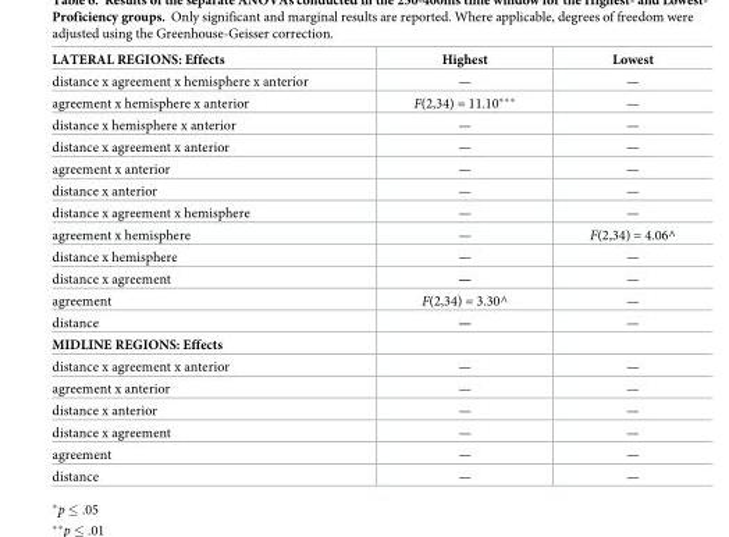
<table><thead><tr><td>LATERAL REGIONS: Effects</td><td>Highest</td><td>Lowest</td></tr></thead><tbody><tr><td>distance x agreement x hemisphere x anterior</td><td>—</td><td>—</td></tr><tr><td>agreement x hemisphere x anterior</td><td>F(2,34) = 11.10***</td><td>—</td></tr><tr><td>distance x hemisphere x anterior</td><td>—</td><td>—</td></tr><tr><td>distance x agreement x anterior</td><td>—</td><td>—</td></tr><tr><td>agreement x anterior</td><td>—</td><td>—</td></tr><tr><td>distance x anterior</td><td>—</td><td>—</td></tr><tr><td>distance x agreement x hemisphere</td><td>—</td><td>—</td></tr><tr><td>agreement x hemisphere</td><td>—</td><td>F(2,34) = 4.06^</td></tr><tr><td>distance x hemisphere</td><td>—</td><td>—</td></tr><tr><td>distance x agreement</td><td>—</td><td>—</td></tr><tr><td>agreement</td><td>F(2,34) = 3.30^</td><td>—</td></tr><tr><td>distance</td><td>—</td><td>—</td></tr><tr><td colspan="3">MIDLINE REGIONS: Effects</td></tr><tr><td>distance x agreement x anterior</td><td>—</td><td>—</td></tr><tr><td>agreement x anterior</td><td>—</td><td>—</td></tr><tr><td>distance x anterior</td><td>—</td><td>—</td></tr><tr><td>distance x agreement</td><td>—</td><td>—</td></tr><tr><td>agreement</td><td>—</td><td>—</td></tr><tr><td>distance</td><td>—</td><td>—</td></tr></tbody></table>